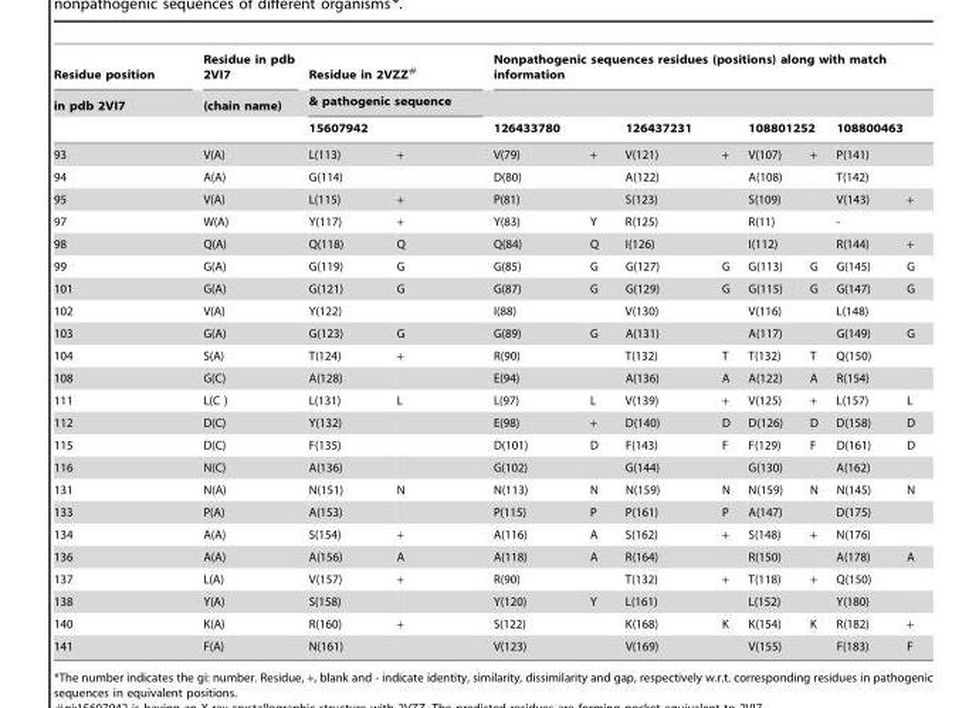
<table><thead><tr><td rowspan="4">Residue position in pdb 2VI7 93</td><td rowspan="4">Residue in pdb 2VI7 (chain name) V(A)</td><td rowspan="3" colspan="2">Residue in 2VZZ# &amp; pathogenic sequence 15607942</td><td colspan="8">Nonpathogenic sequences residues (positions) along with match information</td></tr><tr><td></td><td></td><td></td><td></td><td></td><td></td><td></td><td></td></tr><tr><td colspan="2">126433780</td><td colspan="2">126437231</td><td colspan="2">108801252</td><td colspan="2">108800463</td></tr><tr><td>L(113)</td><td>+</td><td>V(79)</td><td>+</td><td>V(121)</td><td>+</td><td>V(107)</td><td>+</td><td>P(141)</td><td></td></tr></thead><tbody><tr><td>94</td><td>A(A)</td><td>G(114)</td><td></td><td>D(80)</td><td></td><td>A(122)</td><td></td><td>A(108)</td><td></td><td>T(142)</td><td></td></tr><tr><td>95</td><td>V(A)</td><td>L(115)</td><td>+</td><td>P(81)</td><td></td><td>S(123)</td><td></td><td>S(109)</td><td></td><td>V(143)</td><td>+</td></tr><tr><td>97</td><td>W(A)</td><td>Y(117)</td><td>+</td><td>Y(83)</td><td>Y</td><td>R(125)</td><td></td><td>R(11)</td><td></td><td>-</td><td></td></tr><tr><td>98</td><td>Q(A)</td><td>Q(118)</td><td>Q</td><td>Q(84)</td><td>Q</td><td>I(126)</td><td></td><td>I(112)</td><td></td><td>R(144)</td><td>+</td></tr><tr><td>99</td><td>G(A)</td><td>G(119)</td><td>G</td><td>G(85)</td><td>G</td><td>G(127)</td><td>G</td><td>G(113)</td><td>G</td><td>G(145)</td><td>G</td></tr><tr><td>101</td><td>G(A)</td><td>G(121)</td><td>G</td><td>G(87)</td><td>G</td><td>G(129)</td><td>G</td><td>G(115)</td><td>G</td><td>G(147)</td><td>G</td></tr><tr><td>102</td><td>V(A)</td><td>Y(122)</td><td></td><td>I(88)</td><td></td><td>V(130)</td><td></td><td>V(116)</td><td></td><td>L(148)</td><td></td></tr><tr><td>103</td><td>G(A)</td><td>G(123)</td><td>G</td><td>G(89)</td><td>G</td><td>A(131)</td><td></td><td>A(117)</td><td></td><td>G(149)</td><td>G</td></tr><tr><td>104</td><td>S(A)</td><td>T(124)</td><td>+</td><td>R(90)</td><td></td><td>T(132)</td><td>T</td><td>T(132)</td><td>T</td><td>Q(150)</td><td></td></tr><tr><td>108</td><td>G(C)</td><td>A(128)</td><td></td><td>E(94)</td><td></td><td>A(136)</td><td>A</td><td>A(122)</td><td>A</td><td>R(154)</td><td></td></tr><tr><td>111</td><td>L(C )</td><td>L(131)</td><td>L</td><td>L(97)</td><td>L</td><td>V(139)</td><td>+</td><td>V(125)</td><td>+</td><td>L(157)</td><td>L</td></tr><tr><td>112</td><td>D(C)</td><td>Y(132)</td><td></td><td>E(98)</td><td>+</td><td>D(140)</td><td>D</td><td>D(126)</td><td>D</td><td>D(158)</td><td>D</td></tr><tr><td>115</td><td>D(C)</td><td>F(135)</td><td></td><td>D(101)</td><td>D</td><td>F(143)</td><td>F</td><td>F(129)</td><td>F</td><td>D(161)</td><td>D</td></tr><tr><td>116</td><td>N(C)</td><td>A(136)</td><td></td><td>G(102)</td><td></td><td>G(144)</td><td></td><td>G(130)</td><td></td><td>A(162)</td><td></td></tr><tr><td>131</td><td>N(A)</td><td>N(151)</td><td>N</td><td>N(113)</td><td>N</td><td>N(159)</td><td>N</td><td>N(159)</td><td>N</td><td>N(145)</td><td>N</td></tr><tr><td>133</td><td>P(A)</td><td>A(153)</td><td></td><td>P(115)</td><td>P</td><td>P(161)</td><td>P</td><td>A(147)</td><td></td><td>D(175)</td><td></td></tr><tr><td>134</td><td>A(A)</td><td>S(154)</td><td>+</td><td>A(116)</td><td>A</td><td>S(162)</td><td>+</td><td>S(148)</td><td>+</td><td>N(176)</td><td></td></tr><tr><td>136</td><td>A(A)</td><td>A(156)</td><td>A</td><td>A(118)</td><td>A</td><td>R(164)</td><td></td><td>R(150)</td><td></td><td>A(178)</td><td>A</td></tr><tr><td>137</td><td>L(A)</td><td>V(157)</td><td>+</td><td>R(90)</td><td></td><td>T(132)</td><td>+</td><td>T(118)</td><td>+</td><td>Q(150)</td><td></td></tr><tr><td>138</td><td>Y(A)</td><td>S(158)</td><td></td><td>Y(120)</td><td>Y</td><td>L(161)</td><td></td><td>L(152)</td><td></td><td>Y(180)</td><td></td></tr><tr><td>140</td><td>K(A)</td><td>R(160)</td><td>+</td><td>S(122)</td><td></td><td>K(168)</td><td>K</td><td>K(154)</td><td>K</td><td>R(182)</td><td>+</td></tr><tr><td>141</td><td>F(A)</td><td>N(161)</td><td></td><td>V(123)</td><td></td><td>V(169)</td><td></td><td>V(155)</td><td></td><td>F(183)</td><td>F</td></tr></tbody></table>